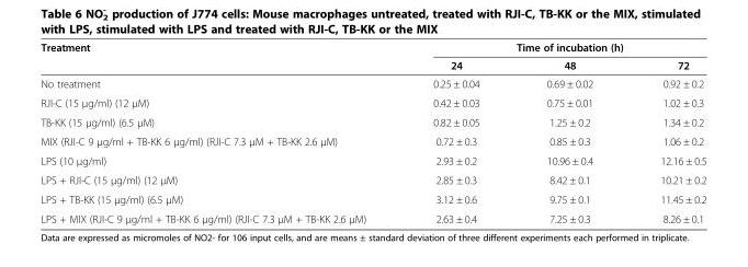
<table><thead><tr><td rowspan="2">Treatment</td><td colspan="3">Time of incubation (h)</td></tr><tr><td>24</td><td>48</td><td>72</td></tr></thead><tbody><tr><td>No treatment</td><td>0.25 ± 0.04</td><td>0.69 ± 0.02</td><td>0.92 ± 0.2</td></tr><tr><td>RJI-C (15 μg/ml) (12 μM)</td><td>0.42 ± 0.03</td><td>0.75 ± 0.01</td><td>1.02 ± 0.3</td></tr><tr><td>TB-KK (15 μg/ml) (6.5 μM)</td><td>0.82 ± 0.05</td><td>1.25 ± 0.2</td><td>1.34 ± 0.2</td></tr><tr><td>MIX (RJI-C 9 μg/ml + TB-KK 6 μg/ml) (RJI-C 7.3 μM + TB-KK 2.6 μM)</td><td>0.72 ± 0.3</td><td>0.85 ± 0.3</td><td>1.06 ± 0.2</td></tr><tr><td>LPS (10 μg/ml)</td><td>2.93 ± 0.2</td><td>10.96 ± 0.4</td><td>12.16 ± 0.5</td></tr><tr><td>LPS + RJI-C (15 μg/ml) (12 μM)</td><td>2.85 ± 0.3</td><td>8.42 ± 0.1</td><td>10.21 ± 0.2</td></tr><tr><td>LPS + TB-KK (15 μg/ml) (6.5 μM)</td><td>3.12 ± 0.6</td><td>9.75 ± 0.1</td><td>11.45 ± 0.2</td></tr><tr><td>LPS + MIX (RJI-C 9 μg/ml + TB-KK 6 μg/ml) (RJI-C 7.3 μM + TB-KK 2.6 μM)</td><td>2.63 ± 0.4</td><td>7.25 ± 0.3</td><td>8.26 ± 0.1</td></tr></tbody></table>